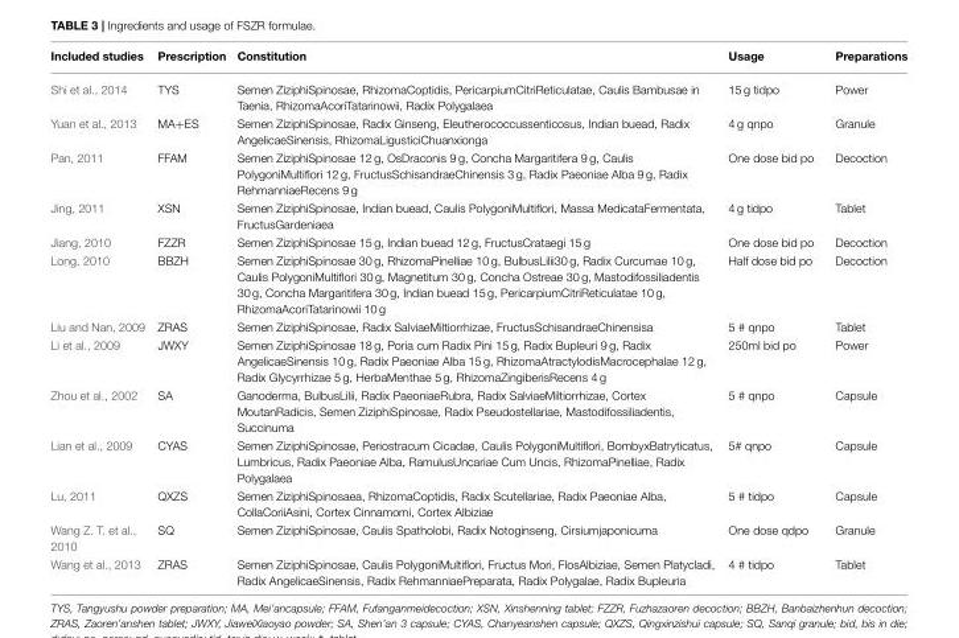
<table><thead><tr><td>Included studies</td><td>Prescription</td><td>Constitution</td><td>Usage</td><td>Preparations</td></tr></thead><tbody><tr><td>Shi et al., 2014</td><td>TYS</td><td>Semen ZiziphiSpinosae, RhizomaCoptidis, PericarpiumCitriReticulatae, Caulis Bambusae in Taenia, RhizomaAcoriTatarinowii, Radix Polygalaea</td><td>15 g tidpo</td><td>Power</td></tr><tr><td>Yuan et al., 2013</td><td>MA+ES</td><td>Semen ZiziphiSpinosae, Radix Ginseng, Eleutherococcussenticosus, Indian buead, Radix AngelicaeSinensis, RhizomaLigusticiChuanxionga</td><td>4 g qnpo</td><td>Granule</td></tr><tr><td>Pan, 2011</td><td>FFAM</td><td>Semen ZiziphiSpinosae 12 g, OsDraconis 9 g, Concha Margaritifera 9 g, Caulis PolygoniMultiflori 12 g, FructusSchisandraeChinensis 3 g, Radix Paeoniae Alba 9 g, Radix RehmanniaeRecens 9 g</td><td>One dose bid po</td><td>Decoction</td></tr><tr><td>Jing, 2011</td><td>XSN</td><td>Semen ZiziphiSpinosae, Indian buead, Caulis PolygoniMultiflori, Massa MedicataFermentata, FructusGardeniaea</td><td>4 g tidpo</td><td>Tablet</td></tr><tr><td>Jiang, 2010</td><td>FZZR</td><td>Semen ZiziphiSpinosae 15 g, Indian buead 12 g, FructusCrataegi 15 g</td><td>One dose bid po</td><td>Decoction</td></tr><tr><td>Long, 2010</td><td>BBZH</td><td>Semen ZiziphiSpinosae 30 g, RhizomaPinelliae 10 g, BulbusLilii30 g, Radix Curcumae 10 g, Caulis PolygoniMultiflori 30 g, Magnetitum 30 g, Concha Ostreae 30 g, Mastodifossiliadentis 30 g, Concha Margaritifera 30 g, Indian buead 15 g, PericarpiumCitriReticulatae 10 g, RhizomaAcoriTatarinowii 10 g</td><td>Half dose bid po</td><td>Decoction</td></tr><tr><td>Liu and Nan, 2009</td><td>ZRAS</td><td>Semen ZiziphiSpinosae, Radix SalviaeMiltiorrhizae, FructusSchisandraeChinensisa</td><td>5 # qnpo</td><td>Tablet</td></tr><tr><td>Li et al., 2009</td><td>JWXY</td><td>Semen ZiziphiSpinosae 18 g, Poria cum Radix Pini 15 g, Radix Bupleuri 9 g, Radix AngelicaeSinensis 10 g, Radix Paeoniae Alba 15 g, RhizomaAtractylodisMacrocephalae 12 g, Radix Glycyrrhizae 5 g, HerbaMenthae 5 g, RhizomaZingiberisRecens 4 g</td><td>250ml bid po</td><td>Power</td></tr><tr><td>Zhou et al., 2002</td><td>SA</td><td>Ganoderma, BulbusLilii, Radix PaeoniaeRubra, Radix SalviaeMiltiorrhizae, Cortex MoutanRadicis, Semen ZiziphiSpinosae, Radix Pseudostellariae, Mastodifossiliadentis, Succinuma</td><td>5 # qnpo</td><td>Capsule</td></tr><tr><td>Lian et al., 2009</td><td>CYAS</td><td>Semen ZiziphiSpinosae, Periostracum Cicadae, Caulis PolygoniMultiflori, BombyxBatryticatus, Lumbricus, Radix Paeoniae Alba, RamulusUncariae Cum Uncis, RhizomaPinelliae, Radix Polygalaea</td><td>5# qnpo</td><td>Capsule</td></tr><tr><td>Lu, 2011</td><td>QXZS</td><td>Semen ZiziphiSpinosaea, RhizomaCoptidis, Radix Scutellariae, Radix Paeoniae Alba, CollaCoriiAsini, Cortex Cinnamomi, Cortex Albiziae</td><td>5 # tidpo</td><td>Capsule</td></tr><tr><td>Wang Z. T. et al., 2010</td><td>SQ</td><td>Semen ZiziphiSpinosae, Caulis Spatholobi, Radix Notoginseng, Cirsiumjaponicuma</td><td>One dose qdpo</td><td>Granule</td></tr><tr><td>Wang et al., 2013</td><td>ZRAS</td><td>Semen ZiziphiSpinosae, Caulis PolygoniMultiflori, Fructus Mori, FlosAlbiziae, Semen Platycladi, Radix AngelicaeSinensis, Radix RehmanniaePreparata, Radix Polygalae, Radix Bupleuria</td><td>4 # tidpo</td><td>Tablet</td></tr></tbody></table>